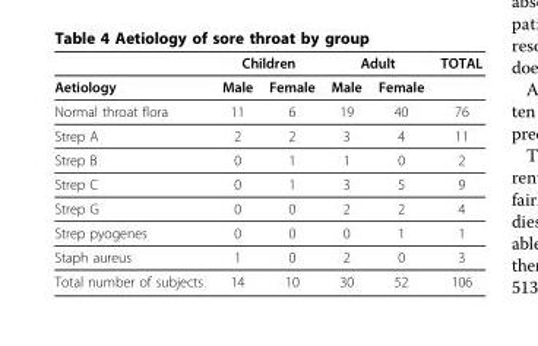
<table><thead><tr><td rowspan="2">Aetiology</td><td colspan="2">Children</td><td colspan="2">Adult</td><td rowspan="2">TOTAL</td></tr><tr><td>Male</td><td>Female</td><td>Male</td><td>Female</td></tr></thead><tbody><tr><td>Normal throat flora</td><td>11</td><td>6</td><td>19</td><td>40</td><td>76</td></tr><tr><td>Strep A</td><td>2</td><td>2</td><td>3</td><td>4</td><td>11</td></tr><tr><td>Strep B</td><td>0</td><td>1</td><td>1</td><td>0</td><td>2</td></tr><tr><td>Strep C</td><td>0</td><td>1</td><td>3</td><td>5</td><td>9</td></tr><tr><td>Strep G</td><td>0</td><td>0</td><td>2</td><td>2</td><td>4</td></tr><tr><td>Strep pyogenes</td><td>0</td><td>0</td><td>0</td><td>1</td><td>1</td></tr><tr><td>Staph aureus</td><td>1</td><td>0</td><td>2</td><td>0</td><td>3</td></tr><tr><td>Total number of subjects</td><td>14</td><td>10</td><td>30</td><td>52</td><td>106</td></tr></tbody></table>